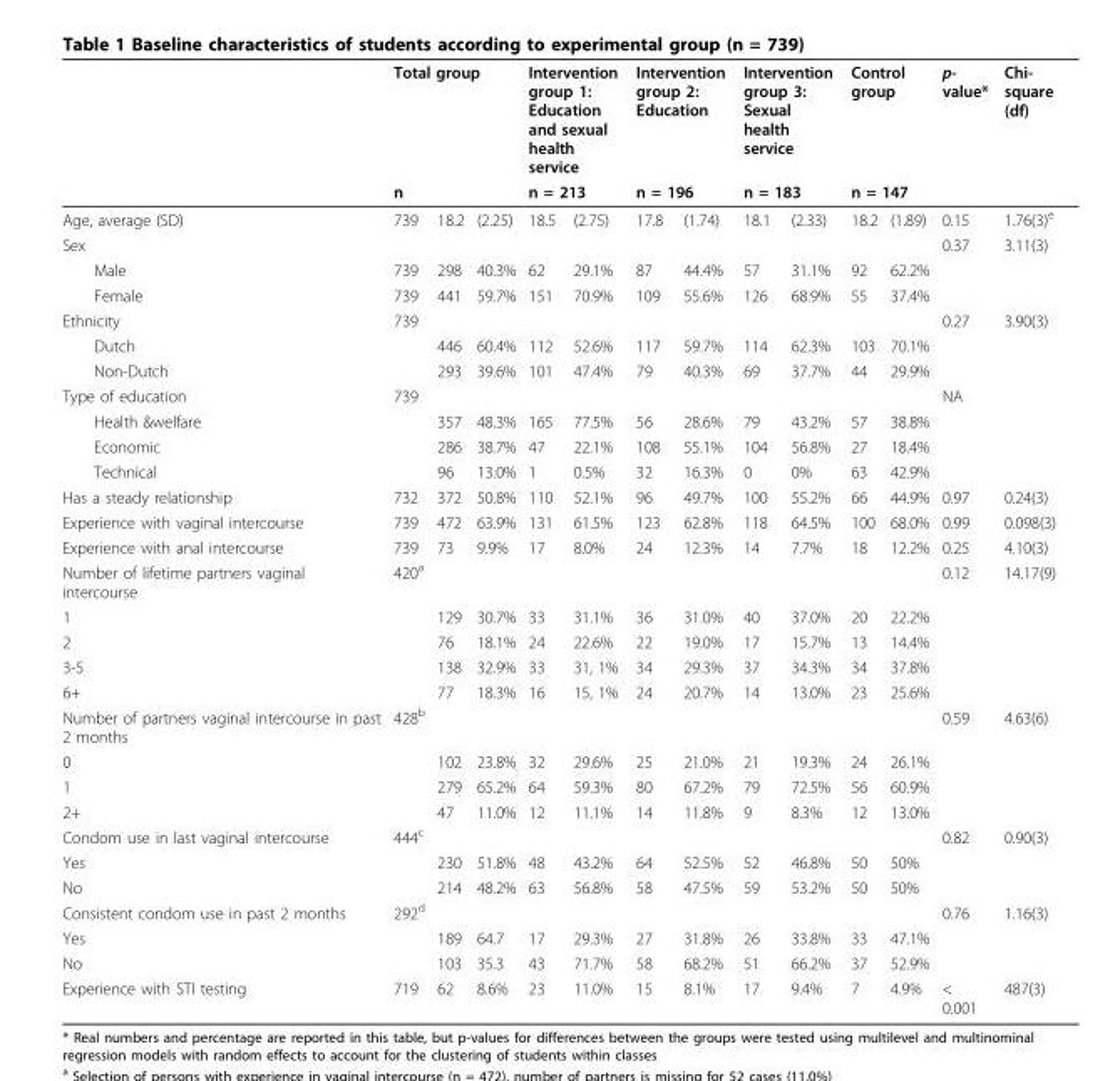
<table><thead><tr><td rowspan="3">Age, average (SD)</td><td rowspan="2" colspan="3">Total group n</td><td rowspan="2" colspan="2">Intervention group 1: Education and sexual health service n = 213</td><td rowspan="2" colspan="2">Intervention group 2: Education n = 196</td><td rowspan="2" colspan="2">Intervention group 3: Sexual health service n = 183</td><td rowspan="2" colspan="2">Control group n = 147</td><td rowspan="3">p- value* 0.15</td><td rowspan="3">Chi- square (df) 1.76(3)<sup>e</sup></td></tr><tr></tr><tr><td>739</td><td>18.2</td><td>(2.25)</td><td>18.5</td><td>(2.75)</td><td>17.8</td><td>(1.74)</td><td>18.1</td><td>(2.33)</td><td>18.2</td><td>(1.89)</td></tr></thead><tbody><tr><td>Sex</td><td></td><td></td><td></td><td></td><td></td><td></td><td></td><td></td><td></td><td></td><td></td><td>0.37</td><td>3.11(3)</td></tr><tr><td>Male</td><td>739</td><td>298</td><td>40.3%</td><td>62</td><td>29.1%</td><td>87</td><td>44.4%</td><td>57</td><td>31.1%</td><td>92</td><td>62.2%</td><td></td><td></td></tr><tr><td>Female</td><td>739</td><td>441</td><td>59.7%</td><td>151</td><td>70.9%</td><td>109</td><td>55.6%</td><td>126</td><td>68.9%</td><td>55</td><td>37.4%</td><td></td><td></td></tr><tr><td>Ethnicity</td><td>739</td><td></td><td></td><td></td><td></td><td></td><td></td><td></td><td></td><td></td><td></td><td>0.27</td><td>3.90(3)</td></tr><tr><td>Dutch</td><td></td><td>446</td><td>60.4%</td><td>112</td><td>52.6%</td><td>117</td><td>59.7%</td><td>114</td><td>62.3%</td><td>103</td><td>70.1%</td><td></td><td></td></tr><tr><td>Non-Dutch</td><td></td><td>293</td><td>39.6%</td><td>101</td><td>47.4%</td><td>79</td><td>40.3%</td><td>69</td><td>37.7%</td><td>44</td><td>29.9%</td><td></td><td></td></tr><tr><td>Type of education</td><td>739</td><td></td><td></td><td></td><td></td><td></td><td></td><td></td><td></td><td></td><td></td><td>NA</td><td></td></tr><tr><td>Health &amp;welfare</td><td></td><td>357</td><td>48.3%</td><td>165</td><td>77.5%</td><td>56</td><td>28.6%</td><td>79</td><td>43.2%</td><td>57</td><td>38.8%</td><td></td><td></td></tr><tr><td>Economic</td><td></td><td>286</td><td>38.7%</td><td>47</td><td>22.1%</td><td>108</td><td>55.1%</td><td>104</td><td>56.8%</td><td>27</td><td>18.4%</td><td></td><td></td></tr><tr><td>Technical</td><td></td><td>96</td><td>13.0%</td><td>1</td><td>0.5%</td><td>32</td><td>16.3%</td><td>0</td><td>0%</td><td>63</td><td>42.9%</td><td></td><td></td></tr><tr><td>Has a steady relationship</td><td>732</td><td>372</td><td>50.8%</td><td>110</td><td>52.1%</td><td>96</td><td>49.7%</td><td>100</td><td>55.2%</td><td>66</td><td>44.9%</td><td>0.97</td><td>0.24(3)</td></tr><tr><td>Experience with vaginal intercourse</td><td>739</td><td>472</td><td>63.9%</td><td>131</td><td>61.5%</td><td>123</td><td>62.8%</td><td>118</td><td>64.5%</td><td>100</td><td>68.0%</td><td>0.99</td><td>0.098(3)</td></tr><tr><td>Experience with anal intercourse</td><td>739</td><td>73</td><td>9.9%</td><td>17</td><td>8.0%</td><td>24</td><td>12.3%</td><td>14</td><td>7.7%</td><td>18</td><td>12.2%</td><td>0.25</td><td>4.10(3)</td></tr><tr><td>Number of lifetime partners vaginal intercourse</td><td>420<sup>a</sup></td><td></td><td></td><td></td><td></td><td></td><td></td><td></td><td></td><td></td><td></td><td>0.12</td><td>14.17(9)</td></tr><tr><td>1</td><td></td><td>129</td><td>30.7%</td><td>33</td><td>31.1%</td><td>36</td><td>31.0%</td><td>40</td><td>37.0%</td><td>20</td><td>22.2%</td><td></td><td></td></tr><tr><td>2</td><td></td><td>76</td><td>18.1%</td><td>24</td><td>22.6%</td><td>22</td><td>19.0%</td><td>17</td><td>15.7%</td><td>13</td><td>14.4%</td><td></td><td></td></tr><tr><td>3-5</td><td></td><td>138</td><td>32.9%</td><td>33</td><td>31, 1%</td><td>34</td><td>29.3%</td><td>37</td><td>34.3%</td><td>34</td><td>37.8%</td><td></td><td></td></tr><tr><td>6+</td><td></td><td>77</td><td>18.3%</td><td>16</td><td>15, 1%</td><td>24</td><td>20.7%</td><td>14</td><td>13.0%</td><td>23</td><td>25.6%</td><td></td><td></td></tr><tr><td>Number of partners vaginal intercourse in past 2 months</td><td>428<sup>b</sup></td><td></td><td></td><td></td><td></td><td></td><td></td><td></td><td></td><td></td><td></td><td>0.59</td><td>4.63(6)</td></tr><tr><td>0</td><td></td><td>102</td><td>23.8%</td><td>32</td><td>29.6%</td><td>25</td><td>21.0%</td><td>21</td><td>19.3%</td><td>24</td><td>26.1%</td><td></td><td></td></tr><tr><td>1</td><td></td><td>279</td><td>65.2%</td><td>64</td><td>59.3%</td><td>80</td><td>67.2%</td><td>79</td><td>72.5%</td><td>56</td><td>60.9%</td><td></td><td></td></tr><tr><td>2+</td><td></td><td>47</td><td>11.0%</td><td>12</td><td>11.1%</td><td>14</td><td>11.8%</td><td>9</td><td>8.3%</td><td>12</td><td>13.0%</td><td></td><td></td></tr><tr><td>Condom use in last vaginal intercourse</td><td>444<sup>c</sup></td><td></td><td></td><td></td><td></td><td></td><td></td><td></td><td></td><td></td><td></td><td>0.82</td><td>0.90(3)</td></tr><tr><td>Yes</td><td></td><td>230</td><td>51.8%</td><td>48</td><td>43.2%</td><td>64</td><td>52.5%</td><td>52</td><td>46.8%</td><td>50</td><td>50%</td><td></td><td></td></tr><tr><td>No</td><td></td><td>214</td><td>48.2%</td><td>63</td><td>56.8%</td><td>58</td><td>47.5%</td><td>59</td><td>53.2%</td><td>50</td><td>50%</td><td></td><td></td></tr><tr><td>Consistent condom use in past 2 months</td><td>292<sup>d</sup></td><td></td><td></td><td></td><td></td><td></td><td></td><td></td><td></td><td></td><td></td><td>0.76</td><td>1.16(3)</td></tr><tr><td>Yes</td><td></td><td>189</td><td>64.7</td><td>17</td><td>29.3%</td><td>27</td><td>31.8%</td><td>26</td><td>33.8%</td><td>33</td><td>47.1%</td><td></td><td></td></tr><tr><td>No</td><td></td><td>103</td><td>35.3</td><td>43</td><td>71.7%</td><td>58</td><td>68.2%</td><td>51</td><td>66.2%</td><td>37</td><td>52.9%</td><td></td><td></td></tr><tr><td>Experience with STI testing</td><td>719</td><td>62</td><td>8.6%</td><td>23</td><td>11.0%</td><td>15</td><td>8.1%</td><td>17</td><td>9.4%</td><td>7</td><td>4.9%</td><td>&lt; 0.001</td><td>487(3)</td></tr></tbody></table>